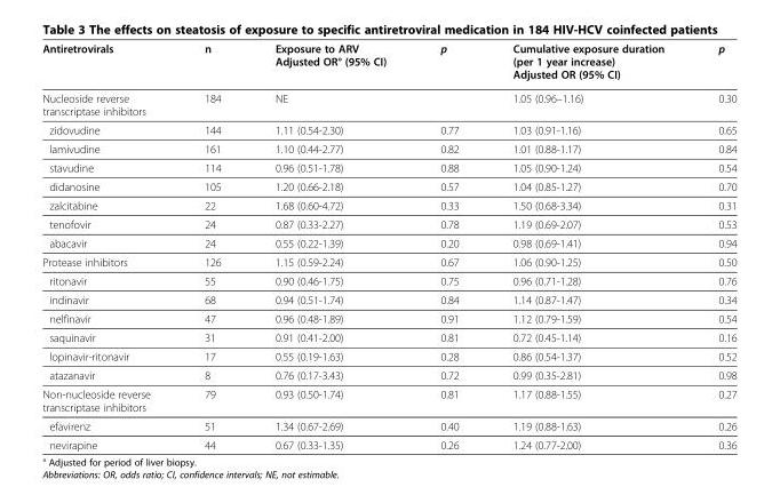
<table><thead><tr><td>Antiretrovirals</td><td>n</td><td>Exposure to ARV Adjusted OR° (95% CI)</td><td>p</td><td>Cumulative exposure duration (per 1 year increase) Adjusted OR (95% CI)</td><td>p</td></tr></thead><tbody><tr><td>Nucleoside reverse transcriptase inhibitors</td><td>184</td><td>NE</td><td></td><td>1.05 (0.96–1.16)</td><td>0.30</td></tr><tr><td>zidovudine</td><td>144</td><td>1.11 (0.54-2.30)</td><td>0.77</td><td>1.03 (0.91-1.16)</td><td>0.65</td></tr><tr><td>lamivudine</td><td>161</td><td>1.10 (0.44-2.77)</td><td>0.82</td><td>1.01 (0.88-1.17)</td><td>0.84</td></tr><tr><td>stavudine</td><td>114</td><td>0.96 (0.51-1.78)</td><td>0.88</td><td>1.05 (0.90-1.24)</td><td>0.54</td></tr><tr><td>didanosine</td><td>105</td><td>1.20 (0.66-2.18)</td><td>0.57</td><td>1.04 (0.85-1.27)</td><td>0.70</td></tr><tr><td>zalcitabine</td><td>22</td><td>1.68 (0.60-4.72)</td><td>0.33</td><td>1.50 (0.68-3.34)</td><td>0.31</td></tr><tr><td>tenofovir</td><td>24</td><td>0.87 (0.33-2.27)</td><td>0.78</td><td>1.19 (0.69-2.07)</td><td>0.53</td></tr><tr><td>abacavir</td><td>24</td><td>0.55 (0.22-1.39)</td><td>0.20</td><td>0.98 (0.69-1.41)</td><td>0.94</td></tr><tr><td>Protease inhibitors</td><td>126</td><td>1.15 (0.59-2.24)</td><td>0.67</td><td>1.06 (0.90-1.25)</td><td>0.50</td></tr><tr><td>ritonavir</td><td>55</td><td>0.90 (0.46-1.75)</td><td>0.75</td><td>0.96 (0.71-1.28)</td><td>0.76</td></tr><tr><td>indinavir</td><td>68</td><td>0.94 (0.51-1.74)</td><td>0.84</td><td>1.14 (0.87-1.47)</td><td>0.34</td></tr><tr><td>nelfinavir</td><td>47</td><td>0.96 (0.48-1.89)</td><td>0.91</td><td>1.12 (0.79-1.59)</td><td>0.54</td></tr><tr><td>saquinavir</td><td>31</td><td>0.91 (0.41-2.00)</td><td>0.81</td><td>0.72 (0.45-1.14)</td><td>0.16</td></tr><tr><td>lopinavir-ritonavir</td><td>17</td><td>0.55 (0.19-1.63)</td><td>0.28</td><td>0.86 (0.54-1.37)</td><td>0.52</td></tr><tr><td>atazanavir</td><td>8</td><td>0.76 (0.17-3.43)</td><td>0.72</td><td>0.99 (0.35-2.81)</td><td>0.98</td></tr><tr><td>Non-nucleoside reverse transcriptase inhibitors</td><td>79</td><td>0.93 (0.50-1.74)</td><td>0.81</td><td>1.17 (0.88-1.55)</td><td>0.27</td></tr><tr><td>efavirenz</td><td>51</td><td>1.34 (0.67-2.69)</td><td>0.40</td><td>1.19 (0.88-1.63)</td><td>0.26</td></tr><tr><td>nevirapine</td><td>44</td><td>0.67 (0.33-1.35)</td><td>0.26</td><td>1.24 (0.77-2.00)</td><td>0.36</td></tr></tbody></table>